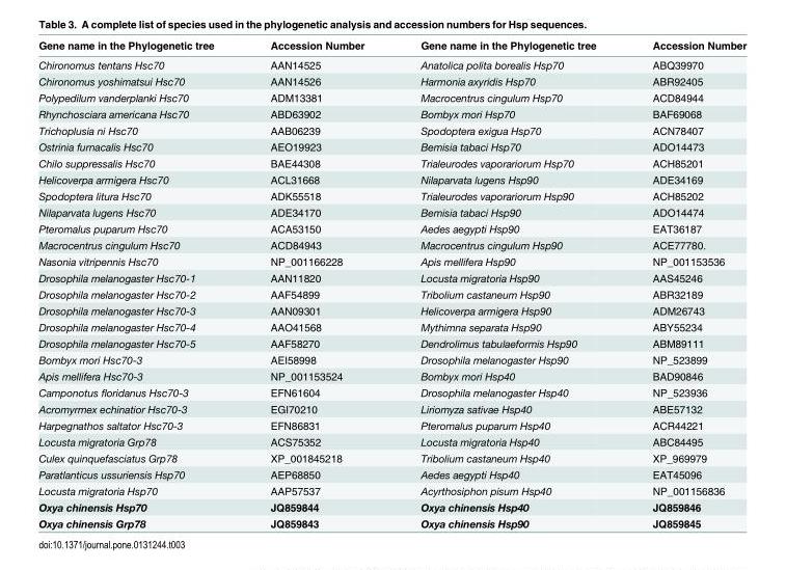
<table><thead><tr><td>Gene name in the Phylogenetic tree</td><td>Accession Number</td><td>Gene name in the Phylogenetic tree</td><td>Accession Number</td></tr></thead><tbody><tr><td>Chironomus tentans Hsc70</td><td>AAN14525</td><td>Anatolica polita borealis Hsp70</td><td>ABQ39970</td></tr><tr><td>Chironomus yoshimatsui Hsc70</td><td>AAN14526</td><td>Harmonia axyridis Hsp70</td><td>ABR92405</td></tr><tr><td>Polypedilum vanderplanki Hsc70</td><td>ADM13381</td><td>Macrocentrus cingulum Hsp70</td><td>ACD84944</td></tr><tr><td>Rhynchosciara americana Hsc70</td><td>ABD63902</td><td>Bombyx mori Hsp70</td><td>BAF69068</td></tr><tr><td>Trichoplusia ni Hsc70</td><td>AAB06239</td><td>Spodoptera exigua Hsp70</td><td>ACN78407</td></tr><tr><td>Ostrinia furnacalis Hsc70</td><td>AEO19923</td><td>Bemisia tabaci Hsp70</td><td>ADO14473</td></tr><tr><td>Chilo suppressalis Hsc70</td><td>BAE44308</td><td>Trialeurodes vaporariorum Hsp70</td><td>ACH85201</td></tr><tr><td>Helicoverpa armigera Hsc70</td><td>ACL31668</td><td>Nilaparvata lugens Hsp90</td><td>ADE34169</td></tr><tr><td>Spodoptera litura Hsc70</td><td>ADK55518</td><td>Trialeurodes vaporariorum Hsp90</td><td>ACH85202</td></tr><tr><td>Nilaparvata lugens Hsc70</td><td>ADE34170</td><td>Bemisia tabaci Hsp90</td><td>ADO14474</td></tr><tr><td>Pteromalus puparum Hsc70</td><td>ACA53150</td><td>Aedes aegypti Hsp90</td><td>EAT36187</td></tr><tr><td>Macrocentrus cingulum Hsc70</td><td>ACD84943</td><td>Macrocentrus cingulum Hsp90</td><td>ACE77780.</td></tr><tr><td>Nasonia vitripennis Hsc70</td><td>NP_001166228</td><td>Apis mellifera Hsp90</td><td>NP_001153536</td></tr><tr><td>Drosophila melanogaster Hsc70-1</td><td>AAN11820</td><td>Locusta migratoria Hsp90</td><td>AAS45246</td></tr><tr><td>Drosophila melanogaster Hsc70-2</td><td>AAF54899</td><td>Tribolium castaneum Hsp90</td><td>ABR32189</td></tr><tr><td>Drosophila melanogaster Hsc70-3</td><td>AAN09301</td><td>Helicoverpa armigera Hsp90</td><td>ADM26743</td></tr><tr><td>Drosophila melanogaster Hsc70-4</td><td>AAO41568</td><td>Mythimna separata Hsp90</td><td>ABY55234</td></tr><tr><td>Drosophila melanogaster Hsc70-5</td><td>AAF58270</td><td>Dendrolimus tabulaeformis Hsp90</td><td>ABM89111</td></tr><tr><td>Bombyx mori Hsc70-3</td><td>AEI58998</td><td>Drosophila melanogaster Hsp90</td><td>NP_523899</td></tr><tr><td>Apis mellifera Hsc70-3</td><td>NP_001153524</td><td>Bombyx mori Hsp40</td><td>BAD90846</td></tr><tr><td>Camponotus floridanus Hsc70-3</td><td>EFN61604</td><td>Drosophila melanogaster Hsp40</td><td>NP_523936</td></tr><tr><td>Acromyrmex echinatior Hsc70-3</td><td>EGI70210</td><td>Liriomyza sativae Hsp40</td><td>ABE57132</td></tr><tr><td>Harpegnathos saltator Hsc70-3</td><td>EFN86831</td><td>Pteromalus puparum Hsp40</td><td>ACR44221</td></tr><tr><td>Locusta migratoria Grp78</td><td>ACS75352</td><td>Locusta migratoria Hsp40</td><td>ABC84495</td></tr><tr><td>Culex quinquefasciatus Grp78</td><td>XP_001845218</td><td>Tribolium castaneum Hsp40</td><td>XP_969979</td></tr><tr><td>Paratlanticus ussuriensis Hsp70</td><td>AEP68850</td><td>Aedes aegypti Hsp40</td><td>EAT45096</td></tr><tr><td>Locusta migratoria Hsp70</td><td>AAP57537</td><td>Acyrthosiphon pisum Hsp40</td><td>NP_001156836</td></tr><tr><td>Oxya chinensis Hsp70</td><td>JQ859844</td><td>Oxya chinensis Hsp40</td><td>JQ859846</td></tr><tr><td>Oxya chinensis Grp78</td><td>JQ859843</td><td>Oxya chinensis Hsp90</td><td>JQ859845</td></tr></tbody></table>